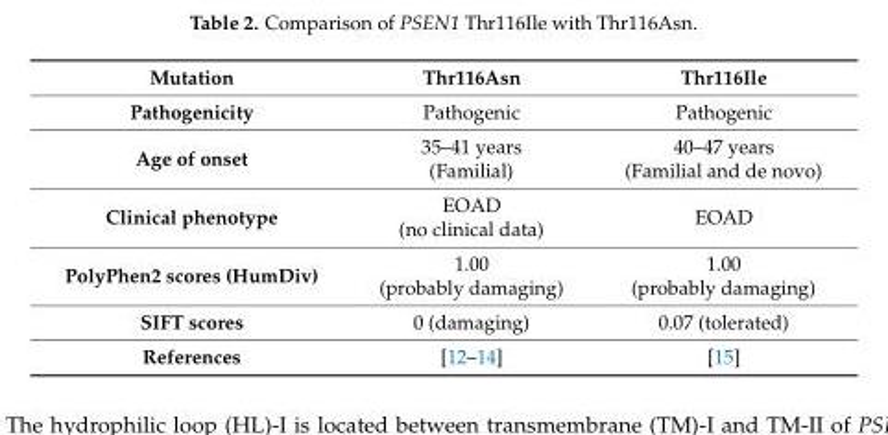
<table><thead><tr><td>Mutation</td><td>Thr116Asn</td><td>Thr116Ile</td></tr></thead><tbody><tr><td>Pathogenicity</td><td>Pathogenic</td><td>Pathogenic</td></tr><tr><td>Age of onset</td><td>35–41 years (Familial)</td><td>40–47 years (Familial and de novo)</td></tr><tr><td>Clinical phenotype</td><td>EOAD (no clinical data)</td><td>EOAD</td></tr><tr><td>PolyPhen2 scores (HumDiv)</td><td>1.00 (probably damaging)</td><td>1.00 (probably damaging)</td></tr><tr><td>SIFT scores</td><td>0 (damaging)</td><td>0.07 (tolerated)</td></tr><tr><td>References</td><td>[12–14]</td><td>[15]</td></tr></tbody></table>